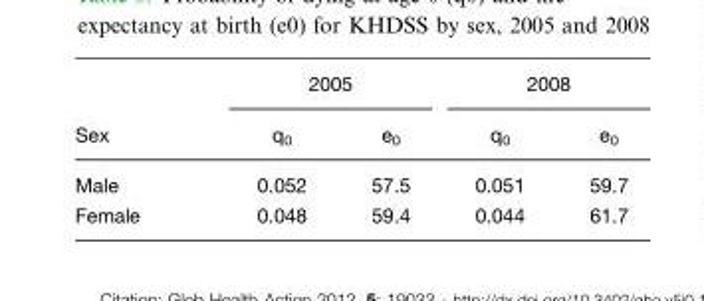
<table><thead><tr><td rowspan="2">Sex</td><td colspan="2">2005</td><td colspan="2">2008</td></tr><tr><td>q<sub>0</sub></td><td>e<sub>0</sub></td><td>q<sub>0</sub></td><td>e<sub>0</sub></td></tr></thead><tbody><tr><td>Male</td><td>0.052</td><td>57.5</td><td>0.051</td><td>59.7</td></tr><tr><td>Female</td><td>0.048</td><td>59.4</td><td>0.044</td><td>61.7</td></tr></tbody></table>